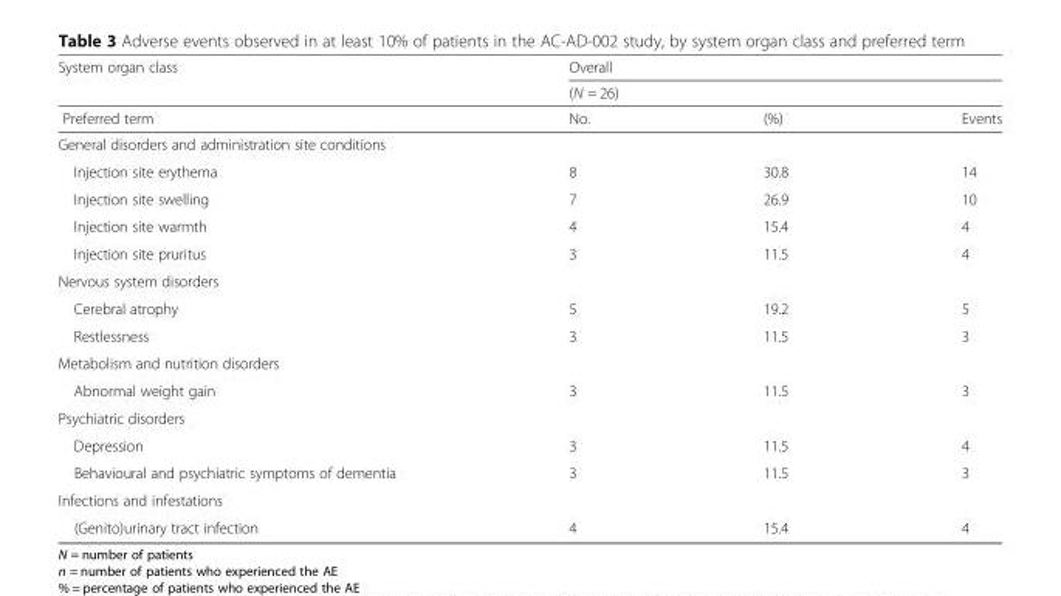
<table><thead><tr><td rowspan="3">System organ class Preferred term</td><td rowspan="2" colspan="3">Overall (N = 26)</td></tr><tr></tr><tr><td>No.</td><td>(%)</td><td>Events</td></tr></thead><tbody><tr><td colspan="4">General disorders and administration site conditions</td></tr><tr><td>Injection site erythema</td><td>8</td><td>30.8</td><td>14</td></tr><tr><td>Injection site swelling</td><td>7</td><td>26.9</td><td>10</td></tr><tr><td>Injection site warmth</td><td>4</td><td>15.4</td><td>4</td></tr><tr><td>Injection site pruritus</td><td>3</td><td>11.5</td><td>4</td></tr><tr><td colspan="4">Nervous system disorders</td></tr><tr><td>Cerebral atrophy</td><td>5</td><td>19.2</td><td>5</td></tr><tr><td>Restlessness</td><td>3</td><td>11.5</td><td>3</td></tr><tr><td colspan="4">Metabolism and nutrition disorders</td></tr><tr><td>Abnormal weight gain</td><td>3</td><td>11.5</td><td>3</td></tr><tr><td colspan="4">Psychiatric disorders</td></tr><tr><td>Depression</td><td>3</td><td>11.5</td><td>4</td></tr><tr><td>Behavioural and psychiatric symptoms of dementia</td><td>3</td><td>11.5</td><td>3</td></tr><tr><td colspan="4">Infections and infestations</td></tr><tr><td>(Genito)urinary tract infection</td><td>4</td><td>15.4</td><td>4</td></tr></tbody></table>